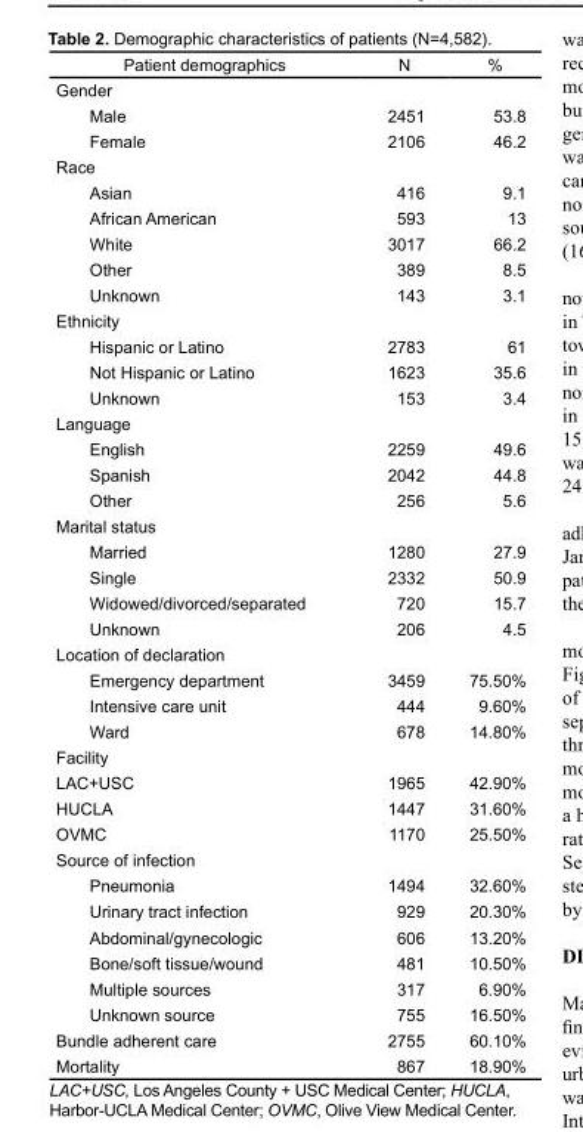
<table><thead><tr><td>Patient demographics</td><td>N</td><td>%</td></tr></thead><tbody><tr><td colspan="3">Gender</td></tr><tr><td>Male</td><td>2451</td><td>53.8</td></tr><tr><td>Female</td><td>2106</td><td>46.2</td></tr><tr><td colspan="3">Race</td></tr><tr><td>Asian</td><td>416</td><td>9.1</td></tr><tr><td>African American</td><td>593</td><td>13</td></tr><tr><td>White</td><td>3017</td><td>66.2</td></tr><tr><td>Other</td><td>389</td><td>8.5</td></tr><tr><td>Unknown</td><td>143</td><td>3.1</td></tr><tr><td colspan="3">Ethnicity</td></tr><tr><td>Hispanic or Latino</td><td>2783</td><td>61</td></tr><tr><td>Not Hispanic or Latino</td><td>1623</td><td>35.6</td></tr><tr><td>Unknown</td><td>153</td><td>3.4</td></tr><tr><td colspan="3">Language</td></tr><tr><td>English</td><td>2259</td><td>49.6</td></tr><tr><td>Spanish</td><td>2042</td><td>44.8</td></tr><tr><td>Other</td><td>256</td><td>5.6</td></tr><tr><td colspan="3">Marital status</td></tr><tr><td>Married</td><td>1280</td><td>27.9</td></tr><tr><td>Single</td><td>2332</td><td>50.9</td></tr><tr><td>Widowed/divorced/separated</td><td>720</td><td>15.7</td></tr><tr><td>Unknown</td><td>206</td><td>4.5</td></tr><tr><td colspan="3">Location of declaration</td></tr><tr><td>Emergency department</td><td>3459</td><td>75.50%</td></tr><tr><td>Intensive care unit</td><td>444</td><td>9.60%</td></tr><tr><td>Ward</td><td>678</td><td>14.80%</td></tr><tr><td colspan="3">Facility</td></tr><tr><td>LAC+USC</td><td>1965</td><td>42.90%</td></tr><tr><td>HUCLA</td><td>1447</td><td>31.60%</td></tr><tr><td>OVMC</td><td>1170</td><td>25.50%</td></tr><tr><td colspan="3">Source of infection</td></tr><tr><td>Pneumonia</td><td>1494</td><td>32.60%</td></tr><tr><td>Urinary tract infection</td><td>929</td><td>20.30%</td></tr><tr><td>Abdominal/gynecologic</td><td>606</td><td>13.20%</td></tr><tr><td>Bone/soft tissue/wound</td><td>481</td><td>10.50%</td></tr><tr><td>Multiple sources</td><td>317</td><td>6.90%</td></tr><tr><td>Unknown source</td><td>755</td><td>16.50%</td></tr><tr><td>Bundle adherent care</td><td>2755</td><td>60.10%</td></tr><tr><td>Mortality</td><td>867</td><td>18.90%</td></tr></tbody></table>